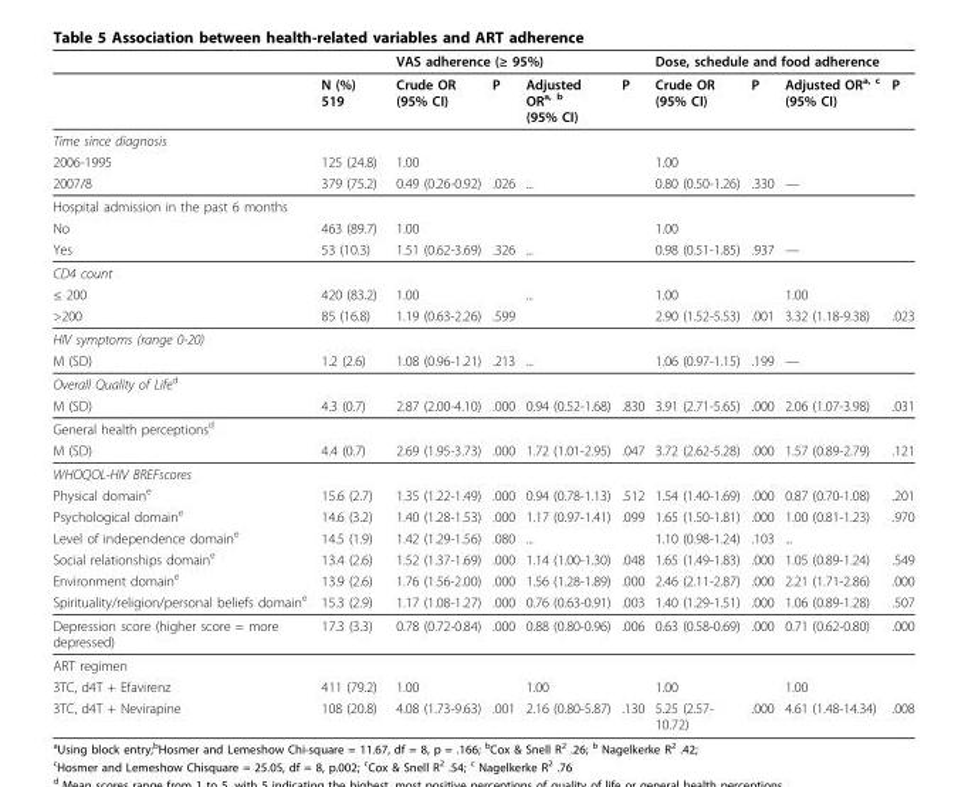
<table><thead><tr><td rowspan="2"></td><td rowspan="2">N (%) 519</td><td colspan="4">VAS adherence (≥ 95%)</td><td colspan="4">Dose, schedule and food adherence</td></tr><tr><td>Crude OR (95% CI)</td><td>P</td><td>Adjusted OR<sup>a, b</sup> (95% CI)</td><td>P</td><td>Crude OR (95% CI)</td><td>P</td><td>Adjusted OR<sup>a, c</sup> (95% CI)</td><td>P</td></tr></thead><tbody><tr><td colspan="10">Time since diagnosis</td></tr><tr><td>2006-1995</td><td>125 (24.8)</td><td>1.00</td><td></td><td></td><td></td><td>1.00</td><td></td><td></td><td></td></tr><tr><td>2007/8</td><td>379 (75.2)</td><td>0.49 (0.26-0.92)</td><td>.026</td><td>...</td><td></td><td>0.80 (0.50-1.26)</td><td>.330</td><td>—</td><td></td></tr><tr><td colspan="10">Hospital admission in the past 6 months</td></tr><tr><td>No</td><td>463 (89.7)</td><td>1.00</td><td></td><td></td><td></td><td>1.00</td><td></td><td></td><td></td></tr><tr><td>Yes</td><td>53 (10.3)</td><td>1.51 (0.62-3.69)</td><td>.326</td><td>...</td><td></td><td>0.98 (0.51-1.85)</td><td>.937</td><td>—</td><td></td></tr><tr><td colspan="10">CD4 count</td></tr><tr><td>≤ 200</td><td>420 (83.2)</td><td>1.00</td><td></td><td>...</td><td></td><td>1.00</td><td></td><td>1.00</td><td></td></tr><tr><td>&gt;200</td><td>85 (16.8)</td><td>1.19 (0.63-2.26)</td><td>.599</td><td></td><td></td><td>2.90 (1.52-5.53)</td><td>.001</td><td>3.32 (1.18-9.38)</td><td>.023</td></tr><tr><td colspan="10">HIV symptoms (range 0-20)</td></tr><tr><td>M (SD)</td><td>1.2 (2.6)</td><td>1.08 (0.96-1.21)</td><td>.213</td><td>...</td><td></td><td>1.06 (0.97-1.15)</td><td>.199</td><td>—</td><td></td></tr><tr><td colspan="10">Overall Quality of Life<sup>d</sup></td></tr><tr><td>M (SD)</td><td>4.3 (0.7)</td><td>2.87 (2.00-4.10)</td><td>.000</td><td>0.94 (0.52-1.68)</td><td>.830</td><td>3.91 (2.71-5.65)</td><td>.000</td><td>2.06 (1.07-3.98)</td><td>.031</td></tr><tr><td colspan="10">General health perceptions<sup>d</sup></td></tr><tr><td>M (SD)</td><td>4.4 (0.7)</td><td>2.69 (1.95-3.73)</td><td>.000</td><td>1.72 (1.01-2.95)</td><td>.047</td><td>3.72 (2.62-5.28)</td><td>.000</td><td>1.57 (0.89-2.79)</td><td>.121</td></tr><tr><td colspan="10">WHOQOL-HIV BREFscores</td></tr><tr><td>Physical domain<sup>e</sup></td><td>15.6 (2.7)</td><td>1.35 (1.22-1.49)</td><td>.000</td><td>0.94 (0.78-1.13)</td><td>.512</td><td>1.54 (1.40-1.69)</td><td>.000</td><td>0.87 (0.70-1.08)</td><td>.201</td></tr><tr><td>Psychological domain<sup>e</sup></td><td>14.6 (3.2)</td><td>1.40 (1.28-1.53)</td><td>.000</td><td>1.17 (0.97-1.41)</td><td>.099</td><td>1.65 (1.50-1.81)</td><td>.000</td><td>1.00 (0.81-1.23)</td><td>.970</td></tr><tr><td>Level of independence domain<sup>e</sup></td><td>14.5 (1.9)</td><td>1.42 (1.29-1.56)</td><td>.080</td><td>...</td><td></td><td>1.10 (0.98-1.24)</td><td>.103</td><td>...</td><td></td></tr><tr><td>Social relationships domain<sup>e</sup></td><td>13.4 (2.6)</td><td>1.52 (1.37-1.69)</td><td>.000</td><td>1.14 (1.00-1.30)</td><td>.048</td><td>1.65 (1.49-1.83)</td><td>.000</td><td>1.05 (0.89-1.24)</td><td>.549</td></tr><tr><td>Environment domain<sup>e</sup></td><td>13.9 (2.6)</td><td>1.76 (1.56-2.00)</td><td>.000</td><td>1.56 (1.28-1.89)</td><td>.000</td><td>2.46 (2.11-2.87)</td><td>.000</td><td>2.21 (1.71-2.86)</td><td>.000</td></tr><tr><td>Spirituality/religion/personal beliefs domain<sup>e</sup></td><td>15.3 (2.9)</td><td>1.17 (1.08-1.27)</td><td>.000</td><td>0.76 (0.63-0.91)</td><td>.003</td><td>1.40 (1.29-1.51)</td><td>.000</td><td>1.06 (0.89-1.28)</td><td>.507</td></tr><tr><td>Depression score (higher score = more depressed)</td><td>17.3 (3.3)</td><td>0.78 (0.72-0.84)</td><td>.000</td><td>0.88 (0.80-0.96)</td><td>.006</td><td>0.63 (0.58-0.69)</td><td>.000</td><td>0.71 (0.62-0.80)</td><td>.000</td></tr><tr><td colspan="10">ART regimen</td></tr><tr><td>3TC, d4T + Efavirenz</td><td>411 (79.2)</td><td>1.00</td><td></td><td>1.00</td><td></td><td>1.00</td><td></td><td>1.00</td><td></td></tr><tr><td>3TC, d4T + Nevirapine</td><td>108 (20.8)</td><td>4.08 (1.73-9.63)</td><td>.001</td><td>2.16 (0.80-5.87)</td><td>.130</td><td>5.25 (2.57- 10.72)</td><td>.000</td><td>4.61 (1.48-14.34)</td><td>.008</td></tr></tbody></table>